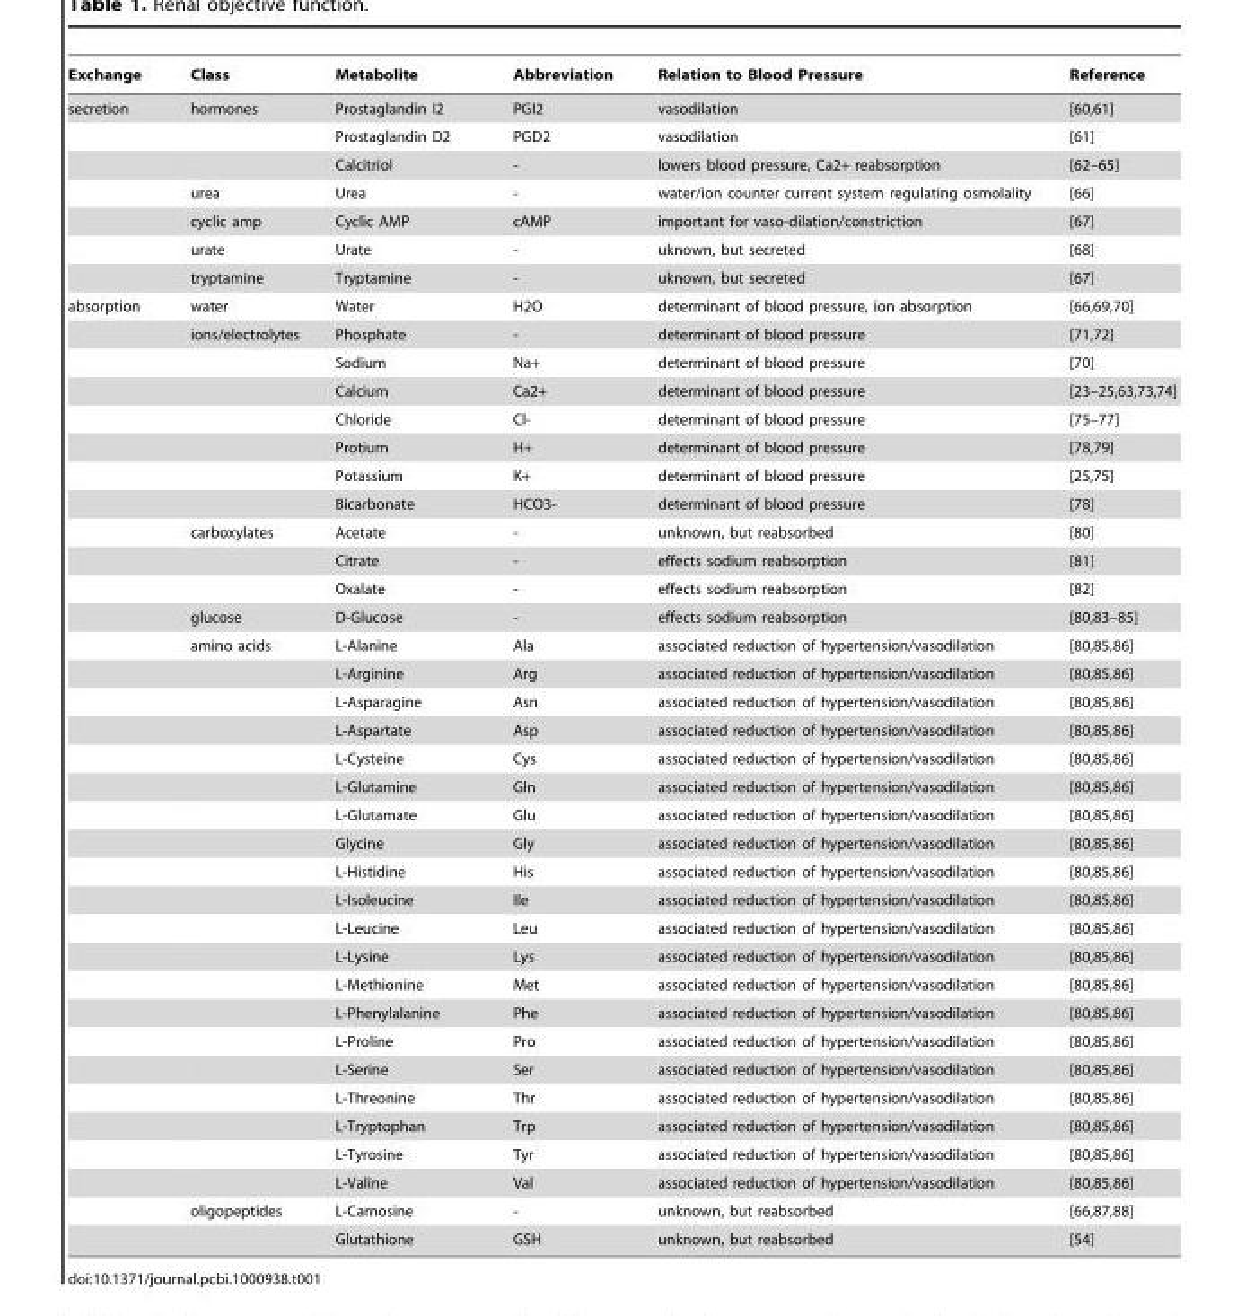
<table><thead><tr><td>Exchange</td><td>Class</td><td>Metabolite</td><td>Abbreviation</td><td>Relation to Blood Pressure</td><td>Reference</td></tr></thead><tbody><tr><td rowspan="7">secretion</td><td>hormones</td><td>Prostaglandin I2</td><td>PGI2</td><td>vasodilation</td><td>[60,61]</td></tr><tr><td></td><td>Prostaglandin D2</td><td>PGD2</td><td>vasodilation</td><td>[61]</td></tr><tr><td></td><td>Calcitriol</td><td>-</td><td>lowers blood pressure, Ca2+ reabsorption</td><td>[62–65]</td></tr><tr><td>urea</td><td>Urea</td><td>-</td><td>water/ion counter current system regulating osmolality</td><td>[66]</td></tr><tr><td>cyclic amp</td><td>Cyclic AMP</td><td>cAMP</td><td>important for vaso-dilation/constriction</td><td>[67]</td></tr><tr><td>urate</td><td>Urate</td><td>-</td><td>uknown, but secreted</td><td>[68]</td></tr><tr><td>tryptamine</td><td>Tryptamine</td><td>-</td><td>uknown, but secreted</td><td>[67]</td></tr><tr><td rowspan="34">absorption</td><td>water</td><td>Water</td><td>H2O</td><td>determinant of blood pressure, ion absorption</td><td>[66,69,70]</td></tr><tr><td>ions/electrolytes</td><td>Phosphate</td><td>-</td><td>determinant of blood pressure</td><td>[71,72]</td></tr><tr><td></td><td>Sodium</td><td>Na+</td><td>determinant of blood pressure</td><td>[70]</td></tr><tr><td></td><td>Calcium</td><td>Ca2+</td><td>determinant of blood pressure</td><td>[23–25,63,73,74]</td></tr><tr><td></td><td>Chloride</td><td>Cl-</td><td>determinant of blood pressure</td><td>[75–77]</td></tr><tr><td></td><td>Protium</td><td>H+</td><td>determinant of blood pressure</td><td>[78,79]</td></tr><tr><td></td><td>Potassium</td><td>K+</td><td>determinant of blood pressure</td><td>[25,75]</td></tr><tr><td></td><td>Bicarbonate</td><td>HCO3-</td><td>determinant of blood pressure</td><td>[78]</td></tr><tr><td>carboxylates</td><td>Acetate</td><td>-</td><td>unknown, but reabsorbed</td><td>[80]</td></tr><tr><td></td><td>Citrate</td><td>-</td><td>effects sodium reabsorption</td><td>[81]</td></tr><tr><td></td><td>Oxalate</td><td>-</td><td>effects sodium reabsorption</td><td>[82]</td></tr><tr><td>glucose</td><td>D-Glucose</td><td>-</td><td>effects sodium reabsorption</td><td>[80,83–85]</td></tr><tr><td>amino acids</td><td>L-Alanine</td><td>Ala</td><td>associated reduction of hypertension/vasodilation</td><td>[80,85,86]</td></tr><tr><td></td><td>L-Arginine</td><td>Arg</td><td>associated reduction of hypertension/vasodilation</td><td>[80,85,86]</td></tr><tr><td></td><td>L-Asparagine</td><td>Asn</td><td>associated reduction of hypertension/vasodilation</td><td>[80,85,86]</td></tr><tr><td></td><td>L-Aspartate</td><td>Asp</td><td>associated reduction of hypertension/vasodilation</td><td>[80,85,86]</td></tr><tr><td></td><td>L-Cysteine</td><td>Cys</td><td>associated reduction of hypertension/vasodilation</td><td>[80,85,86]</td></tr><tr><td></td><td>L-Glutamine</td><td>Gln</td><td>associated reduction of hypertension/vasodilation</td><td>[80,85,86]</td></tr><tr><td></td><td>L-Glutamate</td><td>Glu</td><td>associated reduction of hypertension/vasodilation</td><td>[80,85,86]</td></tr><tr><td></td><td>Glycine</td><td>Gly</td><td>associated reduction of hypertension/vasodilation</td><td>[80,85,86]</td></tr><tr><td></td><td>L-Histidine</td><td>His</td><td>associated reduction of hypertension/vasodilation</td><td>[80,85,86]</td></tr><tr><td></td><td>L-Isoleucine</td><td>Ile</td><td>associated reduction of hypertension/vasodilation</td><td>[80,85,86]</td></tr><tr><td></td><td>L-Leucine</td><td>Leu</td><td>associated reduction of hypertension/vasodilation</td><td>[80,85,86]</td></tr><tr><td></td><td>L-Lysine</td><td>Lys</td><td>associated reduction of hypertension/vasodilation</td><td>[80,85,86]</td></tr><tr><td></td><td>L-Methionine</td><td>Met</td><td>associated reduction of hypertension/vasodilation</td><td>[80,85,86]</td></tr><tr><td></td><td>L-Phenylalanine</td><td>Phe</td><td>associated reduction of hypertension/vasodilation</td><td>[80,85,86]</td></tr><tr><td></td><td>L-Proline</td><td>Pro</td><td>associated reduction of hypertension/vasodilation</td><td>[80,85,86]</td></tr><tr><td></td><td>L-Serine</td><td>Ser</td><td>associated reduction of hypertension/vasodilation</td><td>[80,85,86]</td></tr><tr><td></td><td>L-Threonine</td><td>Thr</td><td>associated reduction of hypertension/vasodilation</td><td>[80,85,86]</td></tr><tr><td></td><td>L-Tryptophan</td><td>Trp</td><td>associated reduction of hypertension/vasodilation</td><td>[80,85,86]</td></tr><tr><td></td><td>L-Tyrosine</td><td>Tyr</td><td>associated reduction of hypertension/vasodilation</td><td>[80,85,86]</td></tr><tr><td></td><td>L-Valine</td><td>Val</td><td>associated reduction of hypertension/vasodilation</td><td>[80,85,86]</td></tr><tr><td>oligopeptides</td><td>L-Carnosine</td><td>-</td><td>unknown, but reabsorbed</td><td>[66,87,88]</td></tr><tr><td></td><td>Glutathione</td><td>GSH</td><td>unknown, but reabsorbed</td><td>[54]</td></tr></tbody></table>